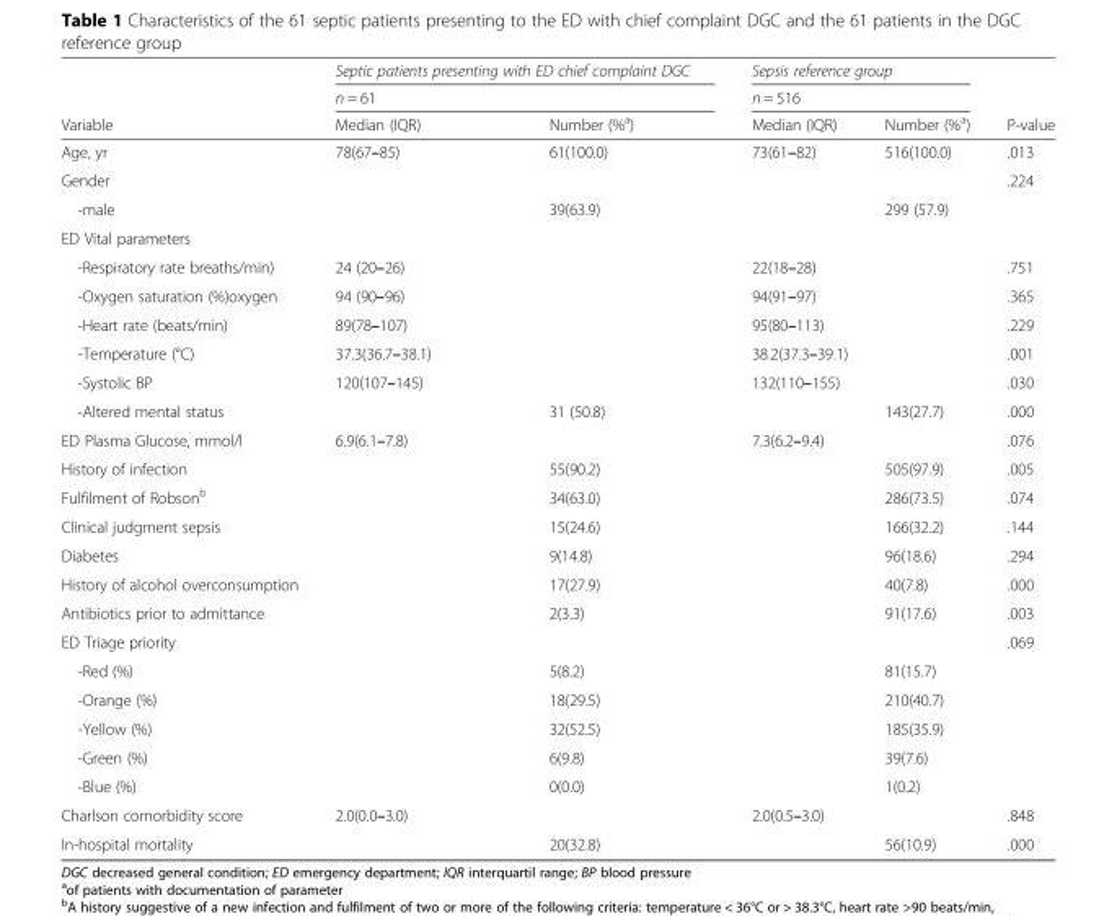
<table><thead><tr><td rowspan="3">Variable</td><td rowspan="2" colspan="2">Septic patients presenting with ED chief complaint DGC n = 61</td><td rowspan="2" colspan="2">Sepsis reference group n = 516</td><td rowspan="3">P-value</td></tr><tr></tr><tr><td>Median (IQR)</td><td>Number (%<sup>a</sup>)</td><td>Median (IQR)</td><td>Number (%<sup>a</sup>)</td></tr></thead><tbody><tr><td>Age, yr</td><td>78(67–85)</td><td>61(100.0)</td><td>73(61–82)</td><td>516(100.0)</td><td>.013</td></tr><tr><td>Gender</td><td></td><td></td><td></td><td></td><td>.224</td></tr><tr><td>-male</td><td></td><td>39(63.9)</td><td></td><td>299 (57.9)</td><td></td></tr><tr><td colspan="6">ED Vital parameters</td></tr><tr><td>-Respiratory rate breaths/min)</td><td>24 (20–26)</td><td></td><td>22(18–28)</td><td></td><td>.751</td></tr><tr><td>-Oxygen saturation (%)oxygen</td><td>94 (90–96)</td><td></td><td>94(91–97)</td><td></td><td>.365</td></tr><tr><td>-Heart rate (beats/min)</td><td>89(78–107)</td><td></td><td>95(80–113)</td><td></td><td>.229</td></tr><tr><td>-Temperature (°C)</td><td>37.3(36.7–38.1)</td><td></td><td>38.2(37.3–39.1)</td><td></td><td>.001</td></tr><tr><td>-Systolic BP</td><td>120(107–145)</td><td></td><td>132(110–155)</td><td></td><td>.030</td></tr><tr><td>-Altered mental status</td><td></td><td>31 (50.8)</td><td></td><td>143(27.7)</td><td>.000</td></tr><tr><td>ED Plasma Glucose, mmol/l</td><td>6.9(6.1–7.8)</td><td></td><td>7.3(6.2–9.4)</td><td></td><td>.076</td></tr><tr><td>History of infection</td><td></td><td>55(90.2)</td><td></td><td>505(97.9)</td><td>.005</td></tr><tr><td>Fulfilment of Robson<sup>b</sup></td><td></td><td>34(63.0)</td><td></td><td>286(73.5)</td><td>.074</td></tr><tr><td>Clinical judgment sepsis</td><td></td><td>15(24.6)</td><td></td><td>166(32.2)</td><td>.144</td></tr><tr><td>Diabetes</td><td></td><td>9(14.8)</td><td></td><td>96(18.6)</td><td>.294</td></tr><tr><td>History of alcohol overconsumption</td><td></td><td>17(27.9)</td><td></td><td>40(7.8)</td><td>.000</td></tr><tr><td>Antibiotics prior to admittance</td><td></td><td>2(3.3)</td><td></td><td>91(17.6)</td><td>.003</td></tr><tr><td>ED Triage priority</td><td></td><td></td><td></td><td></td><td>.069</td></tr><tr><td>-Red (%)</td><td></td><td>5(8.2)</td><td></td><td>81(15.7)</td><td></td></tr><tr><td>-Orange (%)</td><td></td><td>18(29.5)</td><td></td><td>210(40.7)</td><td></td></tr><tr><td>-Yellow (%)</td><td></td><td>32(52.5)</td><td></td><td>185(35.9)</td><td></td></tr><tr><td>-Green (%)</td><td></td><td>6(9.8)</td><td></td><td>39(7.6)</td><td></td></tr><tr><td>-Blue (%)</td><td></td><td>0(0.0)</td><td></td><td>1(0.2)</td><td></td></tr><tr><td>Charlson comorbidity score</td><td>2.0(0.0–3.0)</td><td></td><td>2.0(0.5–3.0)</td><td></td><td>.848</td></tr><tr><td>In-hospital mortality</td><td></td><td>20(32.8)</td><td></td><td>56(10.9)</td><td>.000</td></tr></tbody></table>